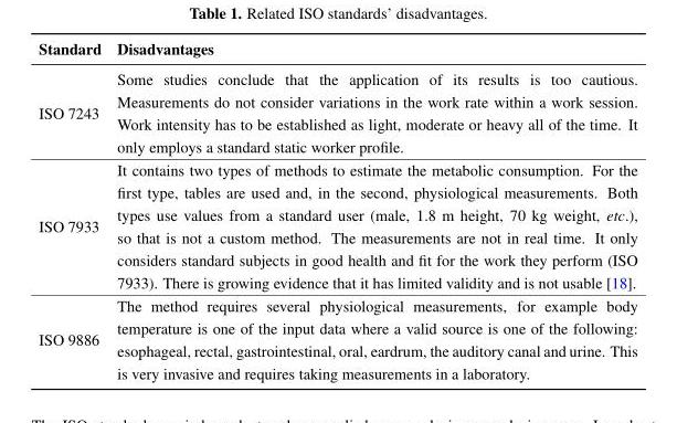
<table><thead><tr><td>Standard</td><td>Disadvantages</td></tr></thead><tbody><tr><td>ISO 7243</td><td>Some studies conclude that the application of its results is too cautious. Measurements do not consider variations in the work rate within a work session. Work intensity has to be established as light, moderate or heavy all of the time. It only employs a standard static worker profile.</td></tr><tr><td>ISO 7933</td><td>It contains two types of methods to estimate the metabolic consumption. For the first type, tables are used and, in the second, physiological measurements. Both types use values from a standard user (male, 1.8 m height, 70 kg weight, etc.), so that is not a custom method. The measurements are not in real time. It only considers standard subjects in good health and fit for the work they perform (ISO 7933). There is growing evidence that it has limited validity and is not usable [18].</td></tr><tr><td>ISO 9886</td><td>The method requires several physiological measurements, for example body temperature is one of the input data where a valid source is one of the following: esophageal, rectal, gastrointestinal, oral, eardrum, the auditory canal and urine. This is very invasive and requires taking measurements in a laboratory.</td></tr></tbody></table>